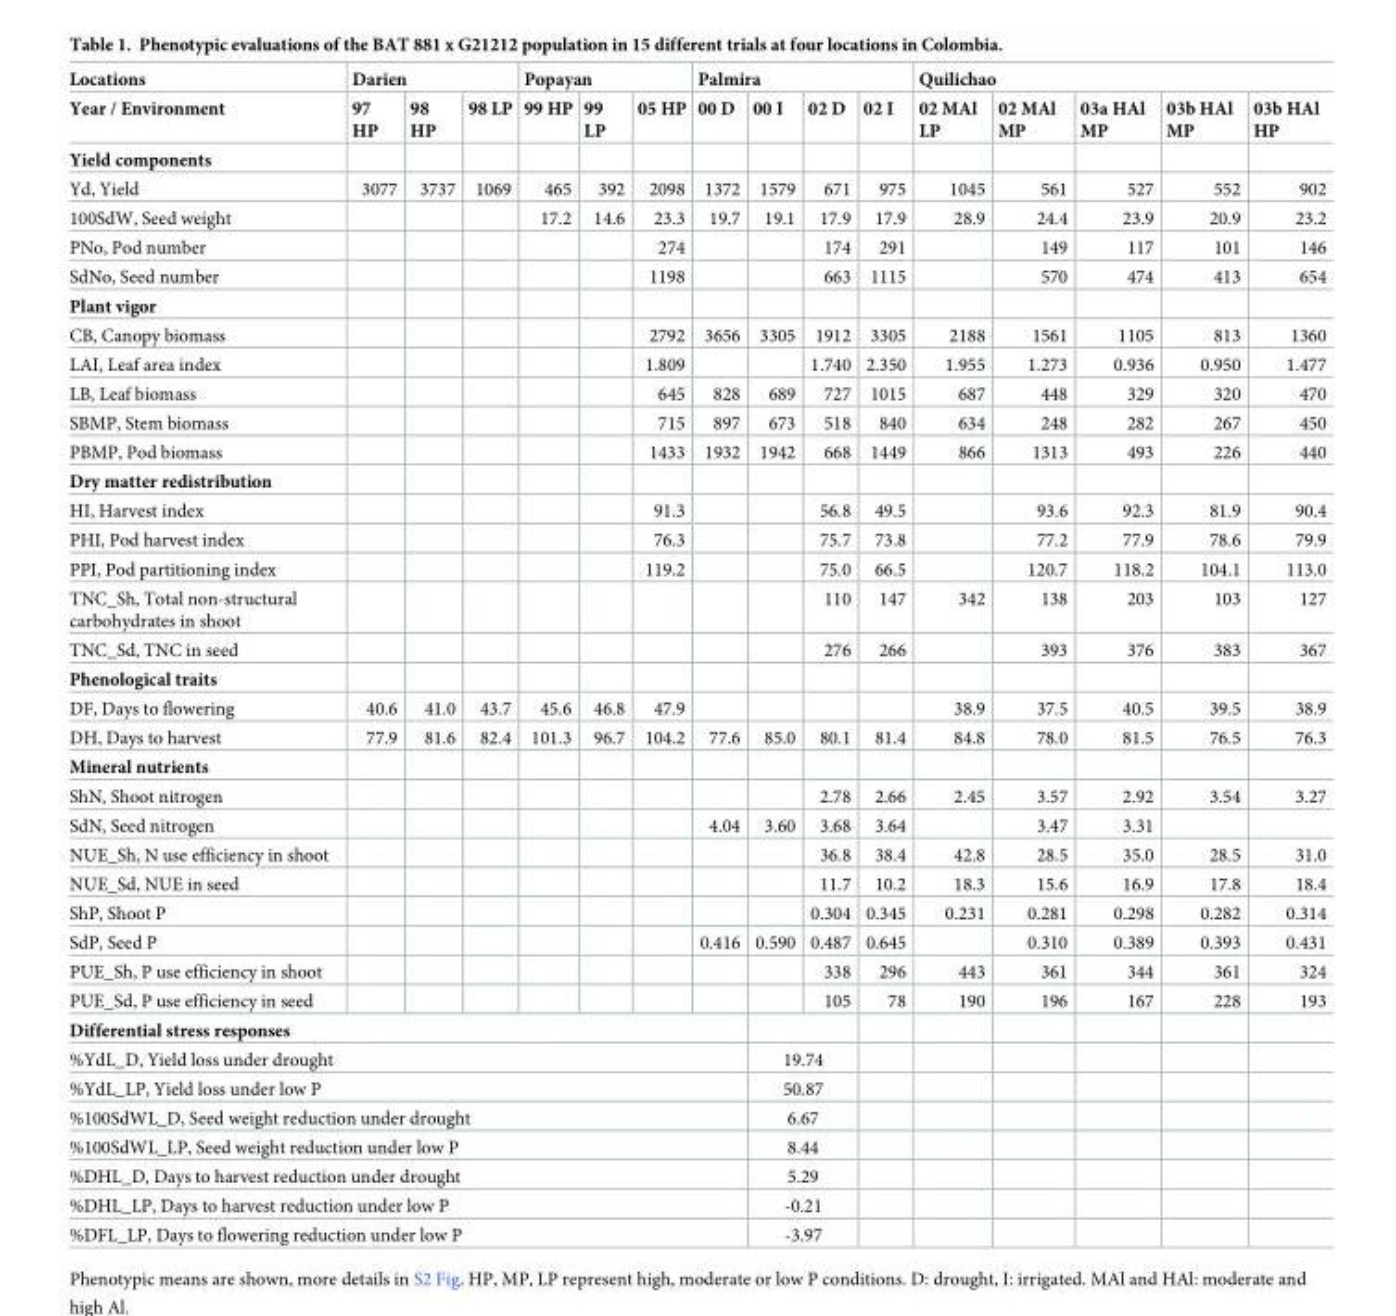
<table><thead><tr><td rowspan="2">Locations Year / Environment</td><td colspan="3">Darien</td><td colspan="3">Popayan</td><td colspan="4">Palmira</td><td colspan="5">Quilichao</td></tr><tr><td>97 HP</td><td>98 HP</td><td>98 LP</td><td>99 HP</td><td>99 LP</td><td>05 HP</td><td>00 D</td><td>00 I</td><td>02 D</td><td>02 I</td><td>02 MAl LP</td><td>02 MAl MP</td><td>03a HAl MP</td><td>03b HAl MP</td><td>03b HAl HP</td></tr></thead><tbody><tr><td colspan="16">Yield components</td></tr><tr><td>Yd, Yield</td><td>3077</td><td>3737</td><td>1069</td><td>465</td><td>392</td><td>2098</td><td>1372</td><td>1579</td><td>671</td><td>975</td><td>1045</td><td>561</td><td>527</td><td>552</td><td>902</td></tr><tr><td>100SdW, Seed weight</td><td></td><td></td><td></td><td>17.2</td><td>14.6</td><td>23.3</td><td>19.7</td><td>19.1</td><td>17.9</td><td>17.9</td><td>28.9</td><td>24.4</td><td>23.9</td><td>20.9</td><td>23.2</td></tr><tr><td>PNo, Pod number</td><td></td><td></td><td></td><td></td><td></td><td>274</td><td></td><td></td><td>174</td><td>291</td><td></td><td>149</td><td>117</td><td>101</td><td>146</td></tr><tr><td>SdNo, Seed number</td><td></td><td></td><td></td><td></td><td></td><td>1198</td><td></td><td></td><td>663</td><td>1115</td><td></td><td>570</td><td>474</td><td>413</td><td>654</td></tr><tr><td colspan="16">Plant vigor</td></tr><tr><td>CB, Canopy biomass</td><td></td><td></td><td></td><td></td><td></td><td>2792</td><td>3656</td><td>3305</td><td>1912</td><td>3305</td><td>2188</td><td>1561</td><td>1105</td><td>813</td><td>1360</td></tr><tr><td>LAI, Leaf area index</td><td></td><td></td><td></td><td></td><td></td><td>1.809</td><td></td><td></td><td>1.740</td><td>2.350</td><td>1.955</td><td>1.273</td><td>0.936</td><td>0.950</td><td>1.477</td></tr><tr><td>LB, Leaf biomass</td><td></td><td></td><td></td><td></td><td></td><td>645</td><td>828</td><td>689</td><td>727</td><td>1015</td><td>687</td><td>448</td><td>329</td><td>320</td><td>470</td></tr><tr><td>SBMP, Stem biomass</td><td></td><td></td><td></td><td></td><td></td><td>715</td><td>897</td><td>673</td><td>518</td><td>840</td><td>634</td><td>248</td><td>282</td><td>267</td><td>450</td></tr><tr><td>PBMP, Pod biomass</td><td></td><td></td><td></td><td></td><td></td><td>1433</td><td>1932</td><td>1942</td><td>668</td><td>1449</td><td>866</td><td>1313</td><td>493</td><td>226</td><td>440</td></tr><tr><td colspan="16">Dry matter redistribution</td></tr><tr><td>HI, Harvest index</td><td></td><td></td><td></td><td></td><td></td><td>91.3</td><td></td><td></td><td>56.8</td><td>49.5</td><td></td><td>93.6</td><td>92.3</td><td>81.9</td><td>90.4</td></tr><tr><td>PHI, Pod harvest index</td><td></td><td></td><td></td><td></td><td></td><td>76.3</td><td></td><td></td><td>75.7</td><td>73.8</td><td></td><td>77.2</td><td>77.9</td><td>78.6</td><td>79.9</td></tr><tr><td>PPI, Pod partitioning index</td><td></td><td></td><td></td><td></td><td></td><td>119.2</td><td></td><td></td><td>75.0</td><td>66.5</td><td></td><td>120.7</td><td>118.2</td><td>104.1</td><td>113.0</td></tr><tr><td>TNC_Sh, Total non-structural carbohydrates in shoot</td><td></td><td></td><td></td><td></td><td></td><td></td><td></td><td></td><td>110</td><td>147</td><td>342</td><td>138</td><td>203</td><td>103</td><td>127</td></tr><tr><td>TNC_Sd, TNC in seed</td><td></td><td></td><td></td><td></td><td></td><td></td><td></td><td></td><td>276</td><td>266</td><td></td><td>393</td><td>376</td><td>383</td><td>367</td></tr><tr><td colspan="16">Phenological traits</td></tr><tr><td>DF, Days to flowering</td><td>40.6</td><td>41.0</td><td>43.7</td><td>45.6</td><td>46.8</td><td>47.9</td><td></td><td></td><td></td><td></td><td>38.9</td><td>37.5</td><td>40.5</td><td>39.5</td><td>38.9</td></tr><tr><td>DH, Days to harvest</td><td>77.9</td><td>81.6</td><td>82.4</td><td>101.3</td><td>96.7</td><td>104.2</td><td>77.6</td><td>85.0</td><td>80.1</td><td>81.4</td><td>84.8</td><td>78.0</td><td>81.5</td><td>76.5</td><td>76.3</td></tr><tr><td colspan="16">Mineral nutrients</td></tr><tr><td>ShN, Shoot nitrogen</td><td></td><td></td><td></td><td></td><td></td><td></td><td></td><td></td><td>2.78</td><td>2.66</td><td>2.45</td><td>3.57</td><td>2.92</td><td>3.54</td><td>3.27</td></tr><tr><td>SdN, Seed nitrogen</td><td></td><td></td><td></td><td></td><td></td><td></td><td>4.04</td><td>3.60</td><td>3.68</td><td>3.64</td><td></td><td>3.47</td><td>3.31</td><td></td><td></td></tr><tr><td>NUE_Sh, N use efficiency in shoot</td><td></td><td></td><td></td><td></td><td></td><td></td><td></td><td></td><td>36.8</td><td>38.4</td><td>42.8</td><td>28.5</td><td>35.0</td><td>28.5</td><td>31.0</td></tr><tr><td>NUE_Sd, NUE in seed</td><td></td><td></td><td></td><td></td><td></td><td></td><td></td><td></td><td>11.7</td><td>10.2</td><td>18.3</td><td>15.6</td><td>16.9</td><td>17.8</td><td>18.4</td></tr><tr><td>ShP, Shoot P</td><td></td><td></td><td></td><td></td><td></td><td></td><td></td><td></td><td>0.304</td><td>0.345</td><td>0.231</td><td>0.281</td><td>0.298</td><td>0.282</td><td>0.314</td></tr><tr><td>SdP, Seed P</td><td></td><td></td><td></td><td></td><td></td><td></td><td>0.416</td><td>0.590</td><td>0.487</td><td>0.645</td><td></td><td>0.310</td><td>0.389</td><td>0.393</td><td>0.431</td></tr><tr><td>PUE_Sh, P use efficiency in shoot</td><td></td><td></td><td></td><td></td><td></td><td></td><td></td><td></td><td>338</td><td>296</td><td>443</td><td>361</td><td>344</td><td>361</td><td>324</td></tr><tr><td>PUE_Sd, P use efficiency in seed</td><td></td><td></td><td></td><td></td><td></td><td></td><td></td><td></td><td>105</td><td>78</td><td>190</td><td>196</td><td>167</td><td>228</td><td>193</td></tr><tr><td colspan="16">Differential stress responses</td></tr><tr><td colspan="8">%YdL_D, Yield loss under drought</td><td colspan="2">19.74</td><td></td><td></td><td></td><td></td><td></td><td></td></tr><tr><td colspan="8">%YdL_LP, Yield loss under low P</td><td colspan="2">50.87</td><td></td><td></td><td></td><td></td><td></td><td></td></tr><tr><td colspan="8">%100SdWL_D, Seed weight reduction under drought</td><td colspan="2">6.67</td><td></td><td></td><td></td><td></td><td></td><td></td></tr><tr><td colspan="8">%100SdWL_LP, Seed weight reduction under low P</td><td colspan="2">8.44</td><td></td><td></td><td></td><td></td><td></td><td></td></tr><tr><td colspan="8">%DHL_D, Days to harvest reduction under drought</td><td colspan="2">5.29</td><td></td><td></td><td></td><td></td><td></td><td></td></tr><tr><td colspan="8">%DHL_LP, Days to harvest reduction under low P</td><td colspan="2">-0.21</td><td></td><td></td><td></td><td></td><td></td><td></td></tr><tr><td colspan="8">%DFL_LP, Days to flowering reduction under low P</td><td colspan="2">-3.97</td><td></td><td></td><td></td><td></td><td></td><td></td></tr></tbody></table>